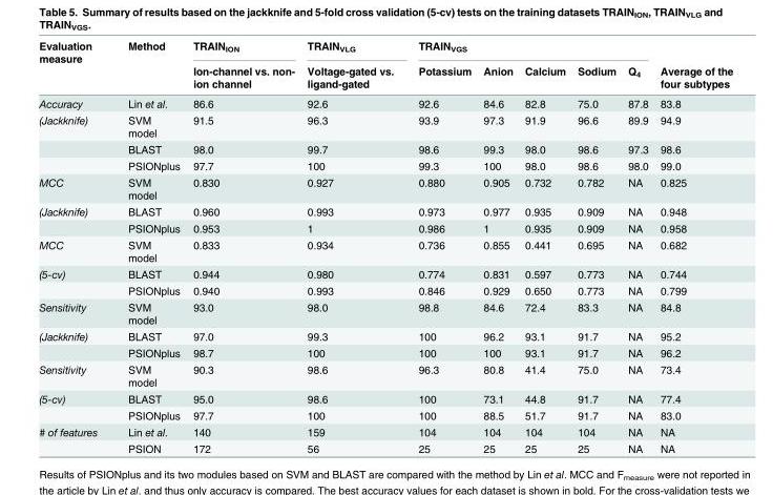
<table><thead><tr><td rowspan="2">Evaluation measure</td><td rowspan="2">Method</td><td rowspan="2">TRAIN<sub>ION</sub> Ion-channel vs. non- ion channel</td><td rowspan="2">TRAIN<sub>VLG</sub> Voltage-gated vs. ligand-gated</td><td colspan="5">TRAIN<sub>VGS</sub></td><td rowspan="2">Average of the four subtypes</td></tr><tr><td>Potassium</td><td>Anion</td><td>Calcium</td><td>Sodium</td><td>Q<sub>4</sub></td></tr></thead><tbody><tr><td>Accuracy</td><td>Lin et al.</td><td>86.6</td><td>92.6</td><td>92.6</td><td>84.6</td><td>82.8</td><td>75.0</td><td>87.8</td><td>83.8</td></tr><tr><td rowspan="3">(Jackknife)</td><td>SVM model</td><td>91.5</td><td>96.3</td><td>93.9</td><td>97.3</td><td>91.9</td><td>96.6</td><td>89.9</td><td>94.9</td></tr><tr><td>BLAST</td><td>98.0</td><td>99.7</td><td>98.6</td><td>99.3</td><td>98.0</td><td>98.6</td><td>97.3</td><td>98.6</td></tr><tr><td>PSIONplus</td><td>97.7</td><td>100</td><td>99.3</td><td>100</td><td>98.0</td><td>98.6</td><td>98.0</td><td>99.0</td></tr><tr><td>MCC</td><td>SVM model</td><td>0.830</td><td>0.927</td><td>0.880</td><td>0.905</td><td>0.732</td><td>0.782</td><td>NA</td><td>0.825</td></tr><tr><td rowspan="2">(Jackknife)</td><td>BLAST</td><td>0.960</td><td>0.993</td><td>0.973</td><td>0.977</td><td>0.935</td><td>0.909</td><td>NA</td><td>0.948</td></tr><tr><td>PSIONplus</td><td>0.953</td><td>1</td><td>0.986</td><td>1</td><td>0.935</td><td>0.909</td><td>NA</td><td>0.958</td></tr><tr><td>MCC</td><td>SVM model</td><td>0.833</td><td>0.934</td><td>0.736</td><td>0.855</td><td>0.441</td><td>0.695</td><td>NA</td><td>0.682</td></tr><tr><td rowspan="2">(5-cv)</td><td>BLAST</td><td>0.944</td><td>0.980</td><td>0.774</td><td>0.831</td><td>0.597</td><td>0.773</td><td>NA</td><td>0.744</td></tr><tr><td>PSIONplus</td><td>0.940</td><td>0.993</td><td>0.846</td><td>0.929</td><td>0.650</td><td>0.773</td><td>NA</td><td>0.799</td></tr><tr><td>Sensitivity</td><td>SVM model</td><td>93.0</td><td>98.0</td><td>98.8</td><td>84.6</td><td>72.4</td><td>83.3</td><td>NA</td><td>84.8</td></tr><tr><td rowspan="2">(Jackknife)</td><td>BLAST</td><td>97.0</td><td>99.3</td><td>100</td><td>96.2</td><td>93.1</td><td>91.7</td><td>NA</td><td>95.2</td></tr><tr><td>PSIONplus</td><td>98.7</td><td>100</td><td>100</td><td>100</td><td>93.1</td><td>91.7</td><td>NA</td><td>96.2</td></tr><tr><td>Sensitivity</td><td>SVM model</td><td>90.3</td><td>98.6</td><td>96.3</td><td>80.8</td><td>41.4</td><td>75.0</td><td>NA</td><td>73.4</td></tr><tr><td rowspan="2">(5-cv)</td><td>BLAST</td><td>95.0</td><td>98.6</td><td>100</td><td>73.1</td><td>44.8</td><td>91.7</td><td>NA</td><td>77.4</td></tr><tr><td>PSIONplus</td><td>97.7</td><td>100</td><td>100</td><td>88.5</td><td>51.7</td><td>91.7</td><td>NA</td><td>83.0</td></tr><tr><td rowspan="2"># of features</td><td>Lin et al.</td><td>140</td><td>159</td><td>104</td><td>104</td><td>104</td><td>104</td><td>NA</td><td>NA</td></tr><tr><td>PSION</td><td>172</td><td>56</td><td>25</td><td>25</td><td>25</td><td>25</td><td>NA</td><td>NA</td></tr></tbody></table>